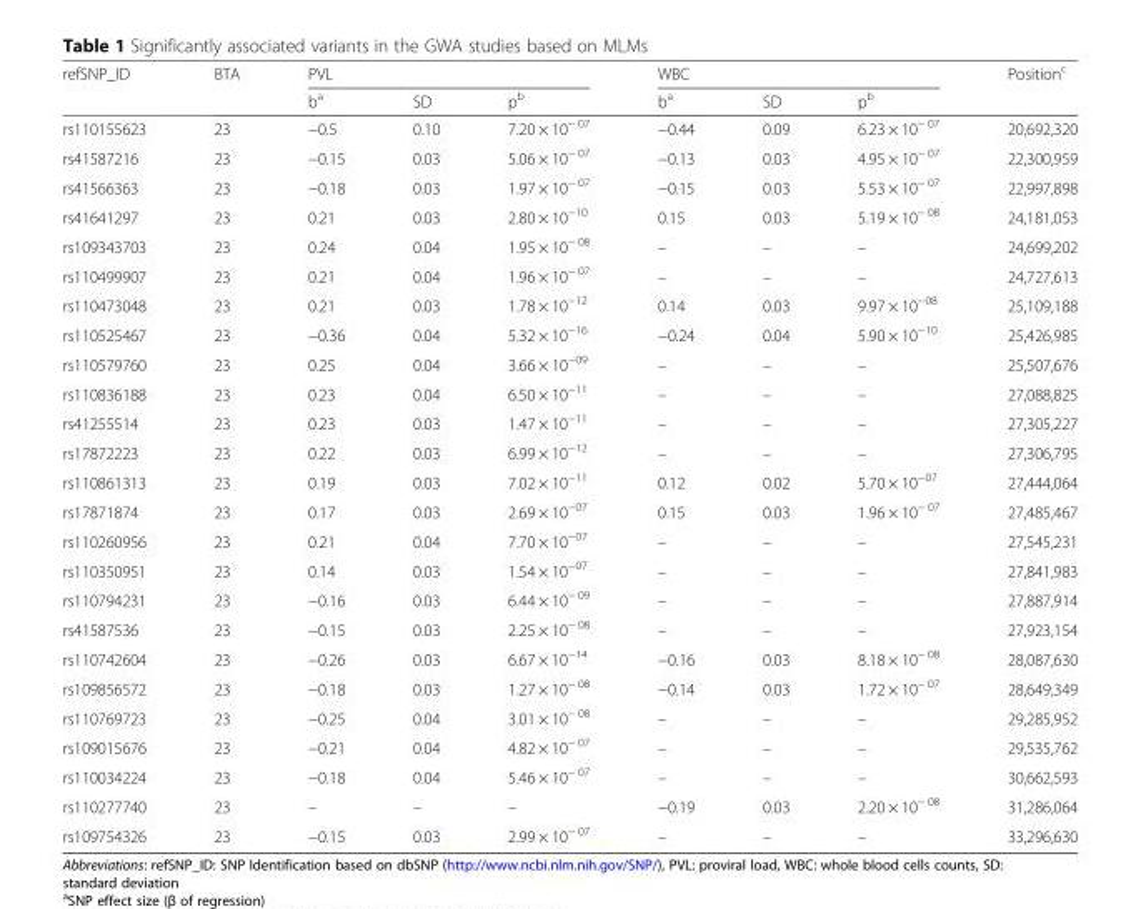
<table><thead><tr><td rowspan="2">refSNP_ID</td><td rowspan="2">BTA</td><td colspan="3">PVL</td><td colspan="3">WBC</td><td rowspan="2">Position<sup>c</sup></td></tr><tr><td>b<sup>a</sup></td><td>SD</td><td>p<sup>b</sup></td><td>b<sup>a</sup></td><td>SD</td><td>p<sup>b</sup></td></tr></thead><tbody><tr><td>rs110155623</td><td>23</td><td>−0.5</td><td>0.10</td><td>7.20 × 10<sup>− 07</sup></td><td>−0.44</td><td>0.09</td><td>6.23 × 10<sup>− 07</sup></td><td>20,692,320</td></tr><tr><td>rs41587216</td><td>23</td><td>−0.15</td><td>0.03</td><td>5.06 × 10<sup>− 07</sup></td><td>−0.13</td><td>0.03</td><td>4.95 × 10<sup>− 07</sup></td><td>22,300,959</td></tr><tr><td>rs41566363</td><td>23</td><td>−0.18</td><td>0.03</td><td>1.97 × 10<sup>− 07</sup></td><td>−0.15</td><td>0.03</td><td>5.53 × 10<sup>− 07</sup></td><td>22,997,898</td></tr><tr><td>rs41641297</td><td>23</td><td>0.21</td><td>0.03</td><td>2.80 × 10<sup>−10</sup></td><td>0.15</td><td>0.03</td><td>5.19 × 10<sup>− 08</sup></td><td>24,181,053</td></tr><tr><td>rs109343703</td><td>23</td><td>0.24</td><td>0.04</td><td>1.95 × 10<sup>− 08</sup></td><td>–</td><td>–</td><td>–</td><td>24,699,202</td></tr><tr><td>rs110499907</td><td>23</td><td>0.21</td><td>0.04</td><td>1.96 × 10<sup>− 07</sup></td><td>–</td><td>–</td><td>–</td><td>24,727,613</td></tr><tr><td>rs110473048</td><td>23</td><td>0.21</td><td>0.03</td><td>1.78 × 10<sup>−12</sup></td><td>0.14</td><td>0.03</td><td>9.97 × 10<sup>−08</sup></td><td>25,109,188</td></tr><tr><td>rs110525467</td><td>23</td><td>−0.36</td><td>0.04</td><td>5.32 × 10<sup>−16</sup></td><td>−0.24</td><td>0.04</td><td>5.90 × 10<sup>−10</sup></td><td>25,426,985</td></tr><tr><td>rs110579760</td><td>23</td><td>0.25</td><td>0.04</td><td>3.66 × 10<sup>−09</sup></td><td>–</td><td>–</td><td>–</td><td>25,507,676</td></tr><tr><td>rs110836188</td><td>23</td><td>0.23</td><td>0.04</td><td>6.50 × 10<sup>−11</sup></td><td>–</td><td>–</td><td>–</td><td>27,088,825</td></tr><tr><td>rs41255514</td><td>23</td><td>0.23</td><td>0.03</td><td>1.47 × 10<sup>−11</sup></td><td>–</td><td>–</td><td>–</td><td>27,305,227</td></tr><tr><td>rs17872223</td><td>23</td><td>0.22</td><td>0.03</td><td>6.99 × 10<sup>−12</sup></td><td>–</td><td>–</td><td>–</td><td>27,306,795</td></tr><tr><td>rs110861313</td><td>23</td><td>0.19</td><td>0.03</td><td>7.02 × 10<sup>−11</sup></td><td>0.12</td><td>0.02</td><td>5.70 × 10<sup>−07</sup></td><td>27,444,064</td></tr><tr><td>rs17871874</td><td>23</td><td>0.17</td><td>0.03</td><td>2.69 × 10<sup>−07</sup></td><td>0.15</td><td>0.03</td><td>1.96 × 10<sup>− 07</sup></td><td>27,485,467</td></tr><tr><td>rs110260956</td><td>23</td><td>0.21</td><td>0.04</td><td>7.70 × 10<sup>−07</sup></td><td>–</td><td>–</td><td>–</td><td>27,545,231</td></tr><tr><td>rs110350951</td><td>23</td><td>0.14</td><td>0.03</td><td>1.54 × 10<sup>−07</sup></td><td>–</td><td>–</td><td>–</td><td>27,841,983</td></tr><tr><td>rs110794231</td><td>23</td><td>−0.16</td><td>0.03</td><td>6.44 × 10<sup>− 09</sup></td><td>–</td><td>–</td><td>–</td><td>27,887,914</td></tr><tr><td>rs41587536</td><td>23</td><td>−0.15</td><td>0.03</td><td>2.25 × 10<sup>− 08</sup></td><td>–</td><td>–</td><td>–</td><td>27,923,154</td></tr><tr><td>rs110742604</td><td>23</td><td>−0.26</td><td>0.03</td><td>6.67 × 10<sup>−14</sup></td><td>−0.16</td><td>0.03</td><td>8.18 × 10<sup>− 08</sup></td><td>28,087,630</td></tr><tr><td>rs109856572</td><td>23</td><td>−0.18</td><td>0.03</td><td>1.27 × 10<sup>− 08</sup></td><td>−0.14</td><td>0.03</td><td>1.72 × 10<sup>− 07</sup></td><td>28,649,349</td></tr><tr><td>rs110769723</td><td>23</td><td>−0.25</td><td>0.04</td><td>3.01 × 10<sup>− 08</sup></td><td>–</td><td>–</td><td>–</td><td>29,285,952</td></tr><tr><td>rs109015676</td><td>23</td><td>−0.21</td><td>0.04</td><td>4.82 × 10<sup>− 07</sup></td><td>–</td><td>–</td><td>–</td><td>29,535,762</td></tr><tr><td>rs110034224</td><td>23</td><td>−0.18</td><td>0.04</td><td>5.46 × 10<sup>− 07</sup></td><td>–</td><td>–</td><td>–</td><td>30,662,593</td></tr><tr><td>rs110277740</td><td>23</td><td>–</td><td>–</td><td>–</td><td>−0.19</td><td>0.03</td><td>2.20 × 10<sup>− 08</sup></td><td>31,286,064</td></tr><tr><td>rs109754326</td><td>23</td><td>−0.15</td><td>0.03</td><td>2.99 × 10<sup>− 07</sup></td><td>–</td><td>–</td><td>–</td><td>33,296,630</td></tr></tbody></table>